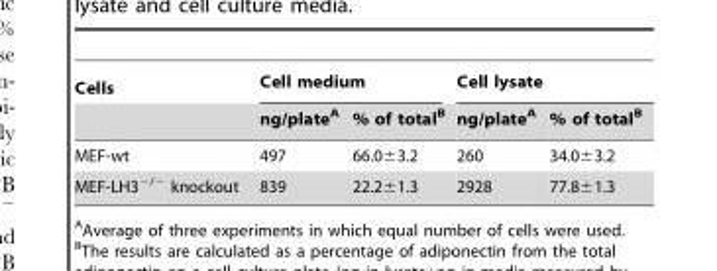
<table><thead><tr><td rowspan="2">Cells</td><td colspan="2">Cell medium</td><td colspan="2">Cell lysate</td></tr><tr><td>ng/plate<sup>A</sup></td><td>% of total<sup>B</sup></td><td>ng/plate<sup>A</sup></td><td>% of total<sup>B</sup></td></tr></thead><tbody><tr><td>MEF-wt</td><td>497</td><td>66.0±3.2</td><td>260</td><td>34.0±3.2</td></tr><tr><td>MEF-LH3<sup>−/−</sup> knockout</td><td>839</td><td>22.2±1.3</td><td>2928</td><td>77.8±1.3</td></tr></tbody></table>